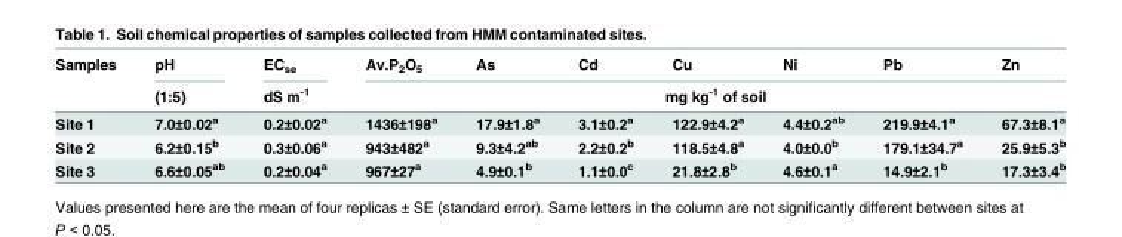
<table><thead><tr><td rowspan="2">Samples</td><td rowspan="2">pH (1:5)</td><td rowspan="2">EC<sub>se</sub> dS m<sup>-1</sup></td><td>Av.P<sub>2</sub>O<sub>5</sub></td><td>As</td><td>Cd</td><td>Cu</td><td>Ni</td><td>Pb</td><td>Zn</td></tr><tr><td colspan="7">mg kg<sup>-1</sup> of soil</td></tr></thead><tbody><tr><td>Site 1</td><td>7.0±0.02<sup>a</sup></td><td>0.2±0.02<sup>a</sup></td><td>1436±198<sup>a</sup></td><td>17.9±1.8<sup>a</sup></td><td>3.1±0.2<sup>a</sup></td><td>122.9±4.2<sup>a</sup></td><td>4.4±0.2<sup>ab</sup></td><td>219.9±4.1<sup>a</sup></td><td>67.3±8.1<sup>a</sup></td></tr><tr><td>Site 2</td><td>6.2±0.15<sup>b</sup></td><td>0.3±0.06<sup>a</sup></td><td>943±482<sup>a</sup></td><td>9.3±4.2<sup>ab</sup></td><td>2.2±0.2<sup>b</sup></td><td>118.5±4.8<sup>a</sup></td><td>4.0±0.0<sup>b</sup></td><td>179.1±34.7<sup>a</sup></td><td>25.9±5.3<sup>b</sup></td></tr><tr><td>Site 3</td><td>6.6±0.05<sup>ab</sup></td><td>0.2±0.04<sup>a</sup></td><td>967±27<sup>a</sup></td><td>4.9±0.1<sup>b</sup></td><td>1.1±0.0<sup>c</sup></td><td>21.8±2.8<sup>b</sup></td><td>4.6±0.1<sup>a</sup></td><td>14.9±2.1<sup>b</sup></td><td>17.3±3.4<sup>b</sup></td></tr></tbody></table>